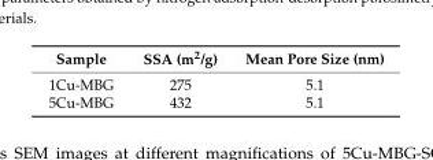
<table><thead><tr><td>Sample</td><td>SSA (m<sup>2</sup>/g)</td><td>Mean Pore Size (nm)</td></tr></thead><tbody><tr><td>1Cu-MBG</td><td>275</td><td>5.1</td></tr><tr><td>5Cu-MBG</td><td>432</td><td>5.1</td></tr></tbody></table>